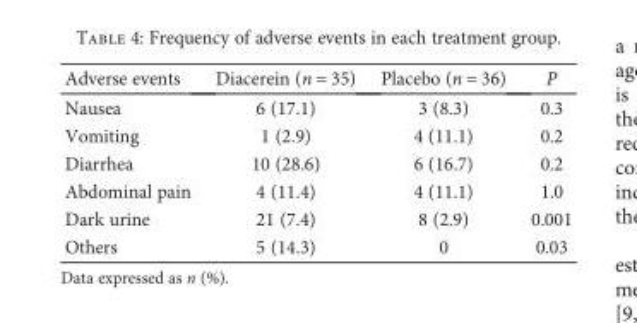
<table><thead><tr><td>Adverse events</td><td>Diacerein (n = 35)</td><td>Placebo (n = 36)</td><td>P</td></tr></thead><tbody><tr><td>Nausea</td><td>6 (17.1)</td><td>3 (8.3)</td><td>0.3</td></tr><tr><td>Vomiting</td><td>1 (2.9)</td><td>4 (11.1)</td><td>0.2</td></tr><tr><td>Diarrhea</td><td>10 (28.6)</td><td>6 (16.7)</td><td>0.2</td></tr><tr><td>Abdominal pain</td><td>4 (11.4)</td><td>4 (11.1)</td><td>1.0</td></tr><tr><td>Dark urine</td><td>21 (7.4)</td><td>8 (2.9)</td><td>0.001</td></tr><tr><td>Others</td><td>5 (14.3)</td><td>0</td><td>0.03</td></tr></tbody></table>